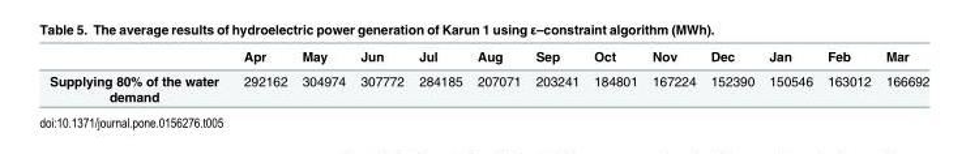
<table><thead><tr><td></td><td>Apr</td><td>May</td><td>Jun</td><td>Jul</td><td>Aug</td><td>Sep</td><td>Oct</td><td>Nov</td><td>Dec</td><td>Jan</td><td>Feb</td><td>Mar</td></tr></thead><tbody><tr><td>Supplying 80% of the water demand</td><td>292162</td><td>304974</td><td>307772</td><td>284185</td><td>207071</td><td>203241</td><td>184801</td><td>167224</td><td>152390</td><td>150546</td><td>163012</td><td>166692</td></tr></tbody></table>